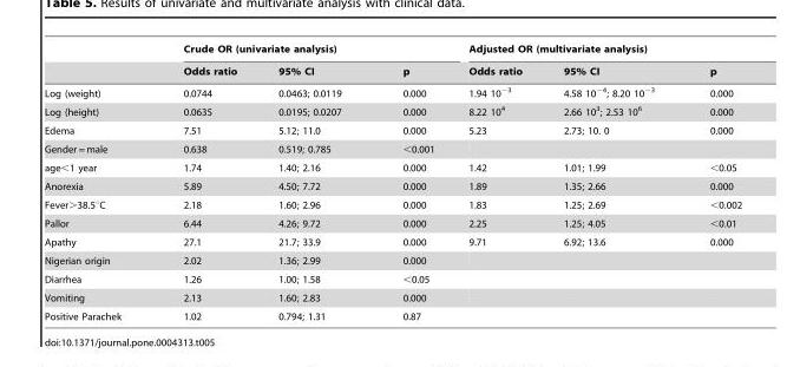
<table><thead><tr><td rowspan="2"></td><td colspan="3">Crude OR (univariate analysis)</td><td colspan="3">Adjusted OR (multivariate analysis)</td></tr><tr><td>Odds ratio</td><td>95% CI</td><td>p</td><td>Odds ratio</td><td>95% CI</td><td>p</td></tr></thead><tbody><tr><td>Log (weight)</td><td>0.0744</td><td>0.0463; 0.0119</td><td>0.000</td><td>1.94 10<sup>−3</sup></td><td>4.58 10<sup>−4</sup>; 8.20 10<sup>−3</sup></td><td>0.000</td></tr><tr><td>Log (height)</td><td>0.0635</td><td>0.0195; 0.0207</td><td>0.000</td><td>8.22 10<sup>4</sup></td><td>2.66 10<sup>3</sup>; 2.53 10<sup>6</sup></td><td>0.000</td></tr><tr><td>Edema</td><td>7.51</td><td>5.12; 11.0</td><td>0.000</td><td>5.23</td><td>2.73; 10. 0</td><td>0.000</td></tr><tr><td>Gender = male</td><td>0.638</td><td>0.519; 0.785</td><td>&lt;0.001</td><td></td><td></td><td></td></tr><tr><td>age&lt;1 year</td><td>1.74</td><td>1.40; 2.16</td><td>0.000</td><td>1.42</td><td>1.01; 1.99</td><td>&lt;0.05</td></tr><tr><td>Anorexia</td><td>5.89</td><td>4.50; 7.72</td><td>0.000</td><td>1.89</td><td>1.35; 2.66</td><td>0.000</td></tr><tr><td>Fever&gt;38.5°C</td><td>2.18</td><td>1.60; 2.96</td><td>0.000</td><td>1.83</td><td>1.25; 2.69</td><td>&lt;0.002</td></tr><tr><td>Pallor</td><td>6.44</td><td>4.26; 9.72</td><td>0.000</td><td>2.25</td><td>1.25; 4.05</td><td>&lt;0.01</td></tr><tr><td>Apathy</td><td>27.1</td><td>21.7; 33.9</td><td>0.000</td><td>9.71</td><td>6.92; 13.6</td><td>0.000</td></tr><tr><td>Nigerian origin</td><td>2.02</td><td>1.36; 2.99</td><td>0.000</td><td></td><td></td><td></td></tr><tr><td>Diarrhea</td><td>1.26</td><td>1.00; 1.58</td><td>&lt;0.05</td><td></td><td></td><td></td></tr><tr><td>Vomiting</td><td>2.13</td><td>1.60; 2.83</td><td>0.000</td><td></td><td></td><td></td></tr><tr><td>Positive Parachek</td><td>1.02</td><td>0.794; 1.31</td><td>0.87</td><td></td><td></td><td></td></tr></tbody></table>